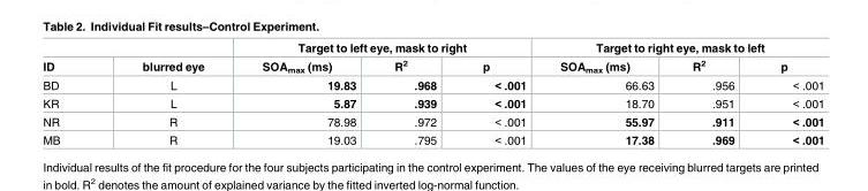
<table><thead><tr><td rowspan="2">ID</td><td rowspan="2">blurred eye</td><td colspan="3">Target to left eye, mask to right</td><td colspan="3">Target to right eye, mask to left</td></tr><tr><td>SOA<sub>max</sub> (ms)</td><td>R<sup>2</sup></td><td>p</td><td>SOA<sub>max</sub> (ms)</td><td>R<sup>2</sup></td><td>p</td></tr></thead><tbody><tr><td>BD</td><td>L</td><td>19.83</td><td>.968</td><td>&lt; .001</td><td>66.63</td><td>.956</td><td>&lt; .001</td></tr><tr><td>KR</td><td>L</td><td>5.87</td><td>.939</td><td>&lt; .001</td><td>18.70</td><td>.951</td><td>&lt; .001</td></tr><tr><td>NR</td><td>R</td><td>78.98</td><td>.972</td><td>&lt; .001</td><td>55.97</td><td>.911</td><td>&lt; .001</td></tr><tr><td>MB</td><td>R</td><td>19.03</td><td>.795</td><td>&lt; .001</td><td>17.38</td><td>.969</td><td>&lt; .001</td></tr></tbody></table>